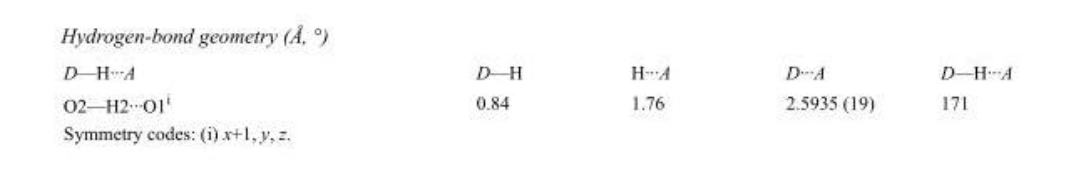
<table><tbody><tr><td>D—H···A</td><td>D—H</td><td>H···A</td><td>D···A</td><td>D—H···A</td></tr><tr><td>O2—H2···O1<sup>i</sup></td><td>0.84</td><td>1.76</td><td>2.5935 (19)</td><td>171</td></tr></tbody></table>